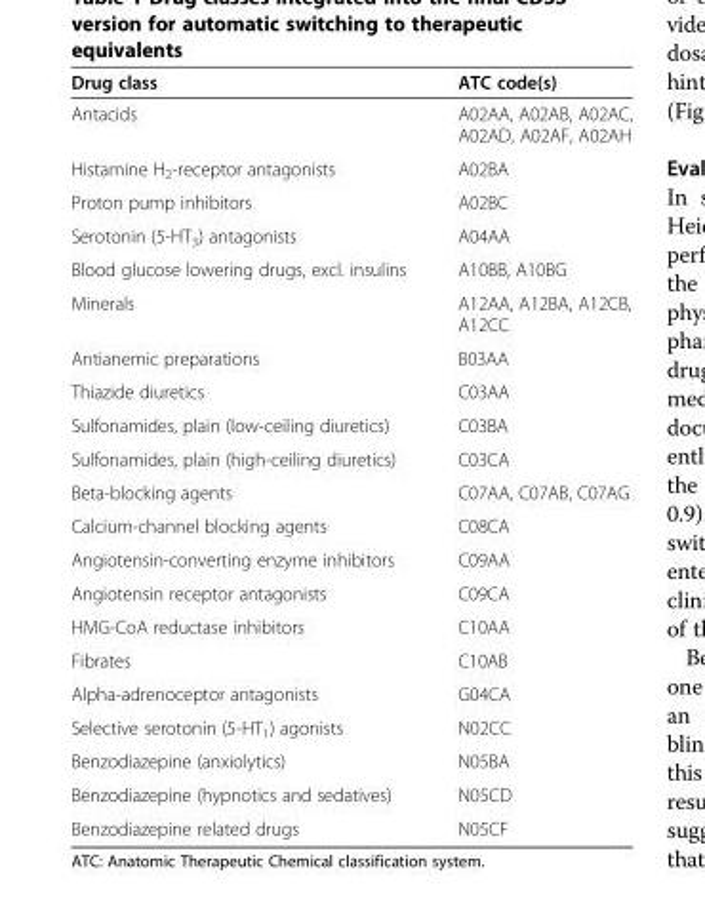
<table><thead><tr><td>Drug class</td><td>ATC code(s)</td></tr></thead><tbody><tr><td>Antacids</td><td>A02AA, A02AB, A02AC, A02AD, A02AF, A02AH</td></tr><tr><td>Histamine H<sub>2</sub>-receptor antagonists</td><td>A02BA</td></tr><tr><td>Proton pump inhibitors</td><td>A02BC</td></tr><tr><td>Serotonin (5-HT<sub>3</sub>) antagonists</td><td>A04AA</td></tr><tr><td>Blood glucose lowering drugs, excl. insulins</td><td>A10BB, A10BG</td></tr><tr><td>Minerals</td><td>A12AA, A12BA, A12CB, A12CC</td></tr><tr><td>Antianemic preparations</td><td>B03AA</td></tr><tr><td>Thiazide diuretics</td><td>C03AA</td></tr><tr><td>Sulfonamides, plain (low-ceiling diuretics)</td><td>C03BA</td></tr><tr><td>Sulfonamides, plain (high-ceiling diuretics)</td><td>C03CA</td></tr><tr><td>Beta-blocking agents</td><td>C07AA, C07AB, C07AG</td></tr><tr><td>Calcium-channel blocking agents</td><td>C08CA</td></tr><tr><td>Angiotensin-converting enzyme inhibitors</td><td>C09AA</td></tr><tr><td>Angiotensin receptor antagonists</td><td>C09CA</td></tr><tr><td>HMG-CoA reductase inhibitors</td><td>C10AA</td></tr><tr><td>Fibrates</td><td>C10AB</td></tr><tr><td>Alpha-adrenoceptor antagonists</td><td>G04CA</td></tr><tr><td>Selective serotonin (5-HT<sub>1</sub>) agonists</td><td>N02CC</td></tr><tr><td>Benzodiazepine (anxiolytics)</td><td>N05BA</td></tr><tr><td>Benzodiazepine (hypnotics and sedatives)</td><td>N05CD</td></tr><tr><td>Benzodiazepine related drugs</td><td>N05CF</td></tr></tbody></table>